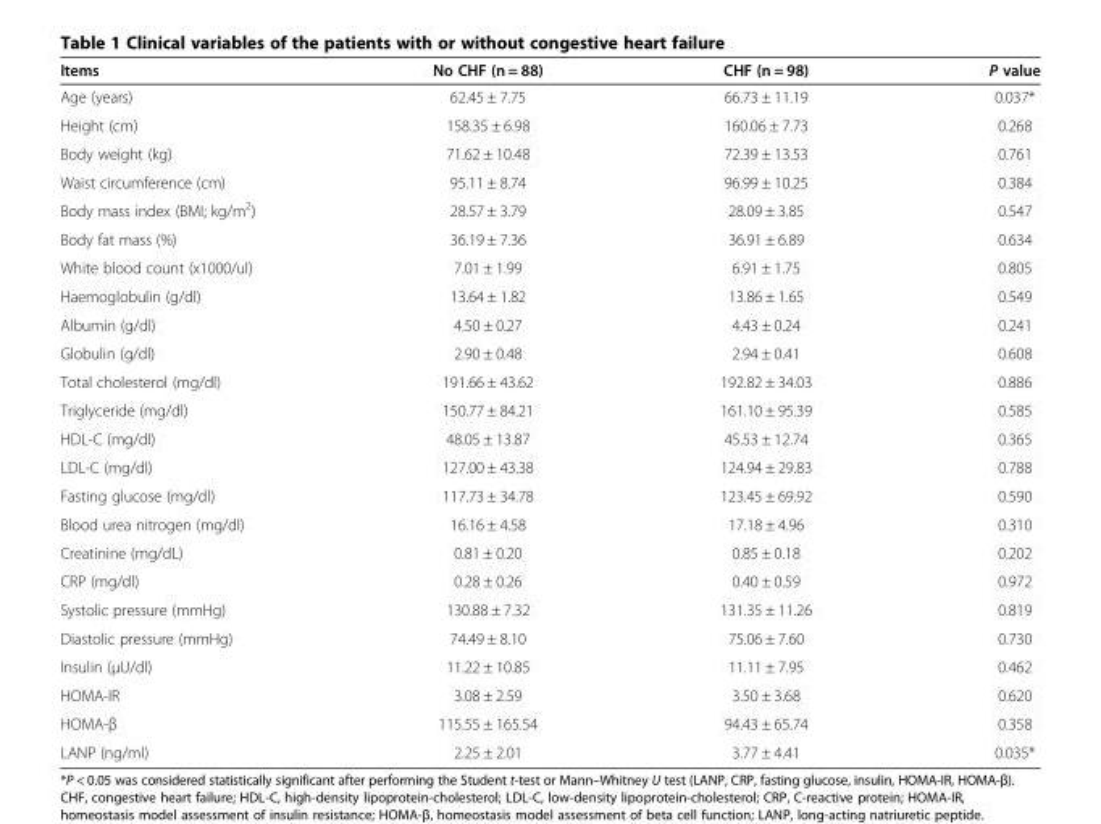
<table><thead><tr><td>Items</td><td>No CHF (n = 88)</td><td>CHF (n = 98)</td><td>P value</td></tr></thead><tbody><tr><td>Age (years)</td><td>62.45 ± 7.75</td><td>66.73 ± 11.19</td><td>0.037*</td></tr><tr><td>Height (cm)</td><td>158.35 ± 6.98</td><td>160.06 ± 7.73</td><td>0.268</td></tr><tr><td>Body weight (kg)</td><td>71.62 ± 10.48</td><td>72.39 ± 13.53</td><td>0.761</td></tr><tr><td>Waist circumference (cm)</td><td>95.11 ± 8.74</td><td>96.99 ± 10.25</td><td>0.384</td></tr><tr><td>Body mass index (BMI; kg/m<sup>2</sup>)</td><td>28.57 ± 3.79</td><td>28.09 ± 3.85</td><td>0.547</td></tr><tr><td>Body fat mass (%)</td><td>36.19 ± 7.36</td><td>36.91 ± 6.89</td><td>0.634</td></tr><tr><td>White blood count (x1000/ul)</td><td>7.01 ± 1.99</td><td>6.91 ± 1.75</td><td>0.805</td></tr><tr><td>Haemoglobulin (g/dl)</td><td>13.64 ± 1.82</td><td>13.86 ± 1.65</td><td>0.549</td></tr><tr><td>Albumin (g/dl)</td><td>4.50 ± 0.27</td><td>4.43 ± 0.24</td><td>0.241</td></tr><tr><td>Globulin (g/dl)</td><td>2.90 ± 0.48</td><td>2.94 ± 0.41</td><td>0.608</td></tr><tr><td>Total cholesterol (mg/dl)</td><td>191.66 ± 43.62</td><td>192.82 ± 34.03</td><td>0.886</td></tr><tr><td>Triglyceride (mg/dl)</td><td>150.77 ± 84.21</td><td>161.10 ± 95.39</td><td>0.585</td></tr><tr><td>HDL-C (mg/dl)</td><td>48.05 ± 13.87</td><td>45.53 ± 12.74</td><td>0.365</td></tr><tr><td>LDL-C (mg/dl)</td><td>127.00 ± 43.38</td><td>124.94 ± 29.83</td><td>0.788</td></tr><tr><td>Fasting glucose (mg/dl)</td><td>117.73 ± 34.78</td><td>123.45 ± 69.92</td><td>0.590</td></tr><tr><td>Blood urea nitrogen (mg/dl)</td><td>16.16 ± 4.58</td><td>17.18 ± 4.96</td><td>0.310</td></tr><tr><td>Creatinine (mg/dL)</td><td>0.81 ± 0.20</td><td>0.85 ± 0.18</td><td>0.202</td></tr><tr><td>CRP (mg/dl)</td><td>0.28 ± 0.26</td><td>0.40 ± 0.59</td><td>0.972</td></tr><tr><td>Systolic pressure (mmHg)</td><td>130.88 ± 7.32</td><td>131.35 ± 11.26</td><td>0.819</td></tr><tr><td>Diastolic pressure (mmHg)</td><td>74.49 ± 8.10</td><td>75.06 ± 7.60</td><td>0.730</td></tr><tr><td>Insulin (μU/dl)</td><td>11.22 ± 10.85</td><td>11.11 ± 7.95</td><td>0.462</td></tr><tr><td>HOMA-IR</td><td>3.08 ± 2.59</td><td>3.50 ± 3.68</td><td>0.620</td></tr><tr><td>HOMA-β</td><td>115.55 ± 165.54</td><td>94.43 ± 65.74</td><td>0.358</td></tr><tr><td>LANP (ng/ml)</td><td>2.25 ± 2.01</td><td>3.77 ± 4.41</td><td>0.035*</td></tr></tbody></table>